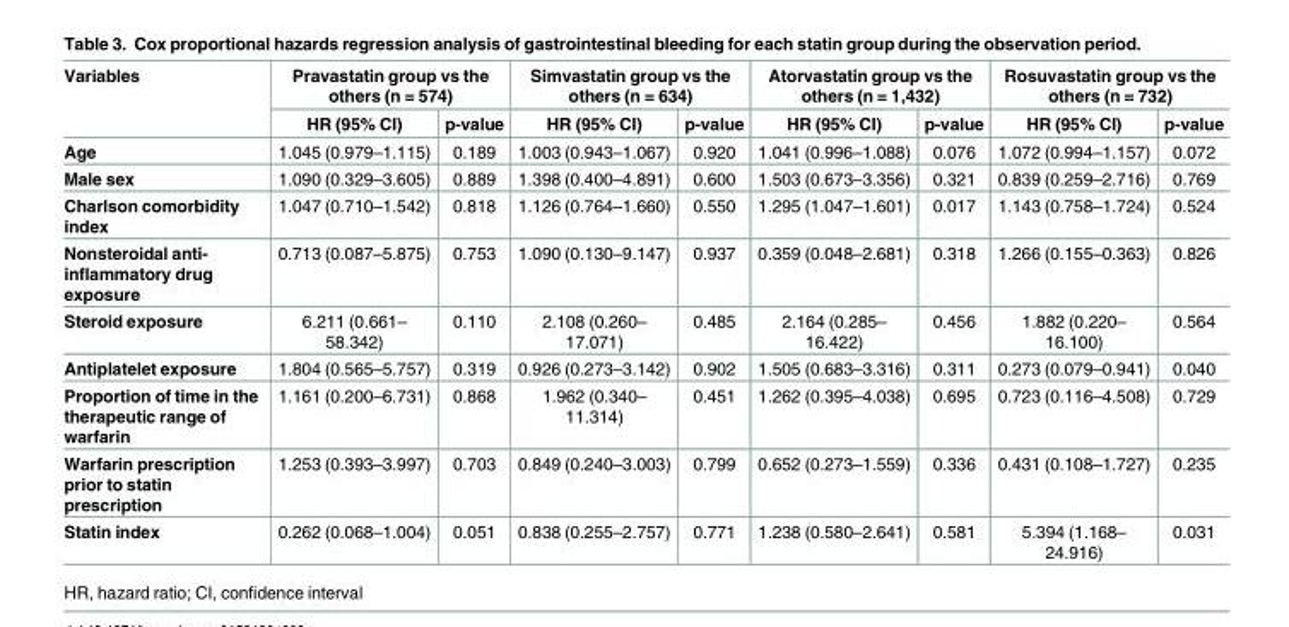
<table><thead><tr><td rowspan="2">Variables</td><td colspan="2">Pravastatin group vs the others (n = 574)</td><td colspan="2">Simvastatin group vs the others (n = 634)</td><td colspan="2">Atorvastatin group vs the others (n = 1,432)</td><td colspan="2">Rosuvastatin group vs the others (n = 732)</td></tr><tr><td>HR (95% CI)</td><td>p-value</td><td>HR (95% CI)</td><td>p-value</td><td>HR (95% CI)</td><td>p-value</td><td>HR (95% CI)</td><td>p-value</td></tr></thead><tbody><tr><td>Age</td><td>1.045 (0.979–1.115)</td><td>0.189</td><td>1.003 (0.943–1.067)</td><td>0.920</td><td>1.041 (0.996–1.088)</td><td>0.076</td><td>1.072 (0.994–1.157)</td><td>0.072</td></tr><tr><td>Male sex</td><td>1.090 (0.329–3.605)</td><td>0.889</td><td>1.398 (0.400–4.891)</td><td>0.600</td><td>1.503 (0.673–3.356)</td><td>0.321</td><td>0.839 (0.259–2.716)</td><td>0.769</td></tr><tr><td>Charlson comorbidity index</td><td>1.047 (0.710–1.542)</td><td>0.818</td><td>1.126 (0.764–1.660)</td><td>0.550</td><td>1.295 (1.047–1.601)</td><td>0.017</td><td>1.143 (0.758–1.724)</td><td>0.524</td></tr><tr><td>Nonsteroidal anti- inflammatory drug exposure</td><td>0.713 (0.087–5.875)</td><td>0.753</td><td>1.090 (0.130–9.147)</td><td>0.937</td><td>0.359 (0.048–2.681)</td><td>0.318</td><td>1.266 (0.155–0.363)</td><td>0.826</td></tr><tr><td>Steroid exposure</td><td>6.211 (0.661– 58.342)</td><td>0.110</td><td>2.108 (0.260– 17.071)</td><td>0.485</td><td>2.164 (0.285– 16.422)</td><td>0.456</td><td>1.882 (0.220– 16.100)</td><td>0.564</td></tr><tr><td>Antiplatelet exposure</td><td>1.804 (0.565–5.757)</td><td>0.319</td><td>0.926 (0.273–3.142)</td><td>0.902</td><td>1.505 (0.683–3.316)</td><td>0.311</td><td>0.273 (0.079–0.941)</td><td>0.040</td></tr><tr><td>Proportion of time in the therapeutic range of warfarin</td><td>1.161 (0.200–6.731)</td><td>0.868</td><td>1.962 (0.340– 11.314)</td><td>0.451</td><td>1.262 (0.395–4.038)</td><td>0.695</td><td>0.723 (0.116–4.508)</td><td>0.729</td></tr><tr><td>Warfarin prescription prior to statin prescription</td><td>1.253 (0.393–3.997)</td><td>0.703</td><td>0.849 (0.240–3.003)</td><td>0.799</td><td>0.652 (0.273–1.559)</td><td>0.336</td><td>0.431 (0.108–1.727)</td><td>0.235</td></tr><tr><td>Statin index</td><td>0.262 (0.068–1.004)</td><td>0.051</td><td>0.838 (0.255–2.757)</td><td>0.771</td><td>1.238 (0.580–2.641)</td><td>0.581</td><td>5.394 (1.168– 24.916)</td><td>0.031</td></tr></tbody></table>